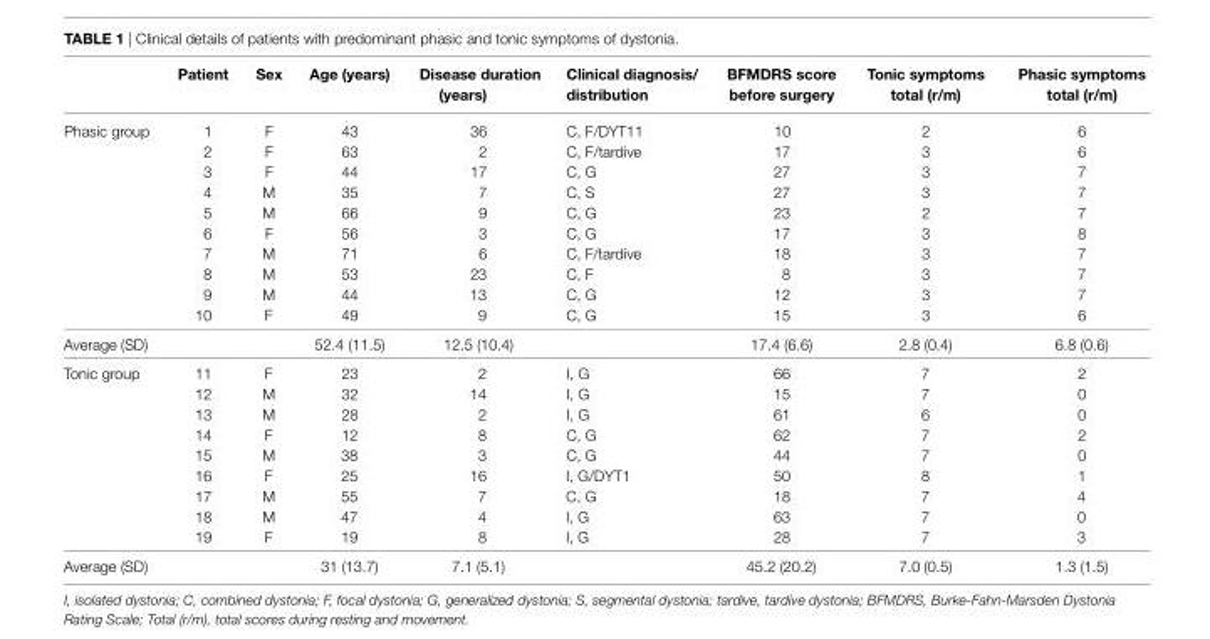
<table><thead><tr><td></td><td>Patient</td><td>sex</td><td>age (years)</td><td>Disease duration (years)</td><td>clinical diagnosis/ distribution</td><td>BFMDrs score before surgery</td><td>Tonic symptoms total (r/m)</td><td>Phasic symptoms total (r/m)</td></tr></thead><tbody><tr><td rowspan="10">Phasic group</td><td>1</td><td>F</td><td>43</td><td>36</td><td>C, F/DYT11</td><td>10</td><td>2</td><td>6</td></tr><tr><td>2</td><td>F</td><td>63</td><td>2</td><td>C, F/tardive</td><td>17</td><td>3</td><td>6</td></tr><tr><td>3</td><td>F</td><td>44</td><td>17</td><td>C, G</td><td>27</td><td>3</td><td>7</td></tr><tr><td>4</td><td>M</td><td>35</td><td>7</td><td>C, S</td><td>27</td><td>3</td><td>7</td></tr><tr><td>5</td><td>M</td><td>66</td><td>9</td><td>C, G</td><td>23</td><td>2</td><td>7</td></tr><tr><td>6</td><td>F</td><td>56</td><td>3</td><td>C, G</td><td>17</td><td>3</td><td>8</td></tr><tr><td>7</td><td>M</td><td>71</td><td>6</td><td>C, F/tardive</td><td>18</td><td>3</td><td>7</td></tr><tr><td>8</td><td>M</td><td>53</td><td>23</td><td>C, F</td><td>8</td><td>3</td><td>7</td></tr><tr><td>9</td><td>M</td><td>44</td><td>13</td><td>C, G</td><td>12</td><td>3</td><td>7</td></tr><tr><td>10</td><td>F</td><td>49</td><td>9</td><td>C, G</td><td>15</td><td>3</td><td>6</td></tr><tr><td>Average (SD)</td><td></td><td></td><td>52.4 (11.5)</td><td>12.5 (10.4)</td><td></td><td>17.4 (6.6)</td><td>2.8 (0.4)</td><td>6.8 (0.6)</td></tr><tr><td rowspan="9">Tonic group</td><td>11</td><td>F</td><td>23</td><td>2</td><td>I, G</td><td>66</td><td>7</td><td>2</td></tr><tr><td>12</td><td>M</td><td>32</td><td>14</td><td>I, G</td><td>15</td><td>7</td><td>0</td></tr><tr><td>13</td><td>M</td><td>28</td><td>2</td><td>I, G</td><td>61</td><td>6</td><td>0</td></tr><tr><td>14</td><td>F</td><td>12</td><td>8</td><td>C, G</td><td>62</td><td>7</td><td>2</td></tr><tr><td>15</td><td>M</td><td>38</td><td>3</td><td>C, G</td><td>44</td><td>7</td><td>0</td></tr><tr><td>16</td><td>F</td><td>25</td><td>16</td><td>I, G/DYT1</td><td>50</td><td>8</td><td>1</td></tr><tr><td>17</td><td>M</td><td>55</td><td>7</td><td>C, G</td><td>18</td><td>7</td><td>4</td></tr><tr><td>18</td><td>M</td><td>47</td><td>4</td><td>I, G</td><td>63</td><td>7</td><td>0</td></tr><tr><td>19</td><td>F</td><td>19</td><td>8</td><td>I, G</td><td>28</td><td>7</td><td>3</td></tr><tr><td>Average (SD)</td><td></td><td></td><td>31 (13.7)</td><td>7.1 (5.1)</td><td></td><td>45.2 (20.2)</td><td>7.0 (0.5)</td><td>1.3 (1.5)</td></tr></tbody></table>